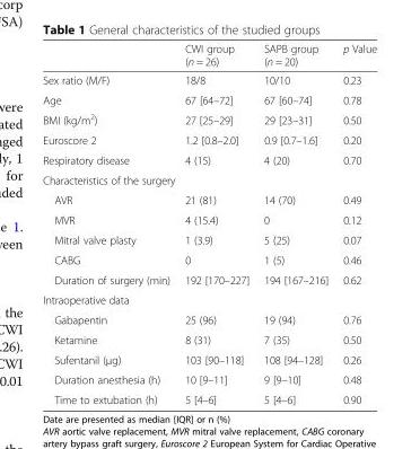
<table><thead><tr><td></td><td>CWI group (n = 26)</td><td>SAPB group (n = 20)</td><td>p Value</td></tr></thead><tbody><tr><td>Sex ratio (M/F)</td><td>18/8</td><td>10/10</td><td>0.23</td></tr><tr><td>Age</td><td>67 [64–72]</td><td>67 [60–74]</td><td>0.78</td></tr><tr><td>BMI (kg/m<sup>2</sup>)</td><td>27 [25–29]</td><td>29 [23–31]</td><td>0.50</td></tr><tr><td>Euroscore 2</td><td>1.2 [0.8–2.0]</td><td>0.9 [0.7–1.6]</td><td>0.20</td></tr><tr><td>Respiratory disease</td><td>4 (15)</td><td>4 (20)</td><td>0.70</td></tr><tr><td colspan="4">Characteristics of the surgery</td></tr><tr><td>AVR</td><td>21 (81)</td><td>14 (70)</td><td>0.49</td></tr><tr><td>MVR</td><td>4 (15.4)</td><td>0</td><td>0.12</td></tr><tr><td>Mitral valve plasty</td><td>1 (3.9)</td><td>5 (25)</td><td>0.07</td></tr><tr><td>CABG</td><td>0</td><td>1 (5)</td><td>0.46</td></tr><tr><td>Duration of surgery (min)</td><td>192 [170–227]</td><td>194 [167–216]</td><td>0.62</td></tr><tr><td colspan="4">Intraoperative data</td></tr><tr><td>Gabapentin</td><td>25 (96)</td><td>19 (94)</td><td>0.76</td></tr><tr><td>Ketamine</td><td>8 (31)</td><td>7 (35)</td><td>0.50</td></tr><tr><td>Sufentanil (μg)</td><td>103 [90–118]</td><td>108 [94–128]</td><td>0.26</td></tr><tr><td>Duration anesthesia (h)</td><td>10 [9–11]</td><td>9 [9–10]</td><td>0.48</td></tr><tr><td>Time to extubation (h)</td><td>5 [4–6]</td><td>5 [4–6]</td><td>0.90</td></tr></tbody></table>